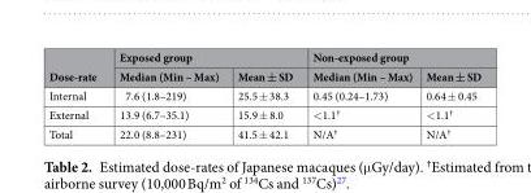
<table><thead><tr><td rowspan="2">Dose-rate</td><td colspan="2">Exposed group</td><td colspan="2">Non-exposed group</td></tr><tr><td>Median (Min – Max)</td><td>Mean ± SD</td><td>Median (Min – Max)</td><td>Mean ± SD</td></tr></thead><tbody><tr><td>Internal</td><td>7.6 (1.8–219)</td><td>25.5 ± 38.3</td><td>0.45 (0.24–1.73)</td><td>0.64 ± 0.45</td></tr><tr><td>External</td><td>13.9 (6.7–35.1)</td><td>15.9 ± 8.0</td><td>&lt;1.1<sup>†</sup></td><td>&lt;1.1<sup>†</sup></td></tr><tr><td>Total</td><td>22.0 (8.8–231)</td><td>41.5 ± 42.1</td><td>N/A<sup>†</sup></td><td>N/A<sup>†</sup></td></tr></tbody></table>